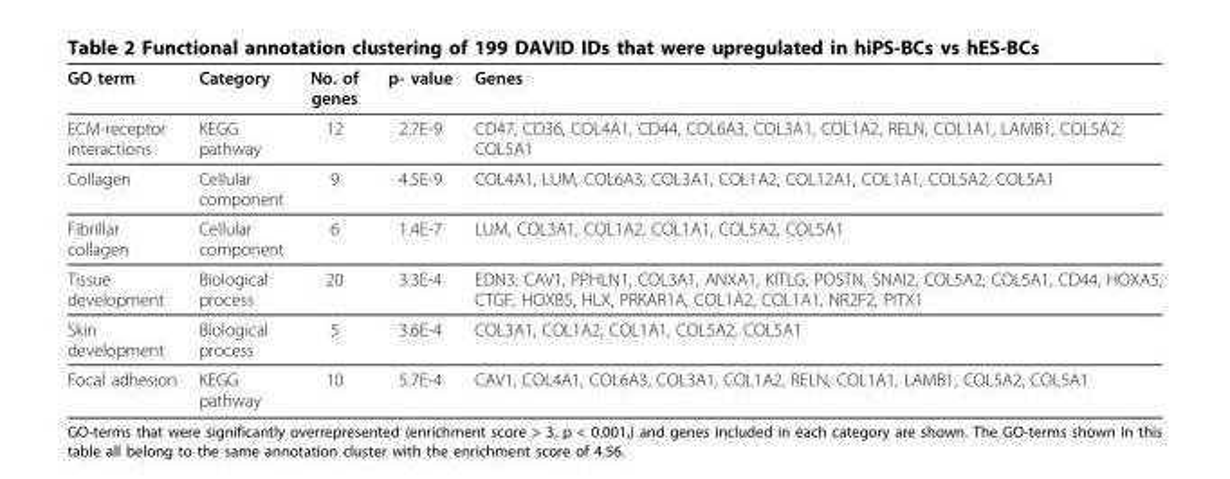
<table><thead><tr><td>GO term</td><td>Category</td><td>No. of genes</td><td>p- value</td><td>Genes</td></tr></thead><tbody><tr><td>ECM-receptor interactions</td><td>KEGG pathway</td><td>12</td><td>2.7E-9</td><td>CD47, CD36, COL4A1, CD44, COL6A3, COL3A1, COL1A2, RELN, COL1A1, LAMB1, COL5A2, COL5A1</td></tr><tr><td>Collagen</td><td>Cellular component</td><td>9</td><td>4.5E-9</td><td>COL4A1, LUM, COL6A3, COL3A1, COL1A2, COL12A1, COL1A1, COL5A2, COL5A1</td></tr><tr><td>Fibrillar collagen</td><td>Cellular component</td><td>6</td><td>1.4E-7</td><td>LUM, COL3A1, COL1A2, COL1A1, COL5A2, COL5A1</td></tr><tr><td>Tissue development</td><td>Biological process</td><td>20</td><td>3.3E-4</td><td>EDN3, CAV1, PPHLN1, COL3A1, ANXA1, KITLG, POSTN, SNAI2, COL5A2, COL5A1, CD44, HOXA5, CTGF, HOXB5, HLX, PRKAR1A, COL1A2, COL1A1, NR2F2, PITX1</td></tr><tr><td>Skin development</td><td>Biological process</td><td>5</td><td>3.6E-4</td><td>COL3A1, COL1A2, COL1A1, COL5A2, COL5A1</td></tr><tr><td>Focal adhesion</td><td>KEGG pathway</td><td>10</td><td>5.7E-4</td><td>CAV1, COL4A1, COL6A3, COL3A1, COL1A2, RELN, COL1A1, LAMB1, COL5A2, COL5A1</td></tr></tbody></table>